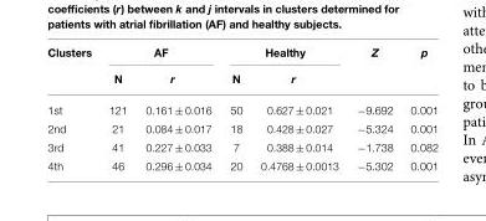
<table><thead><tr><td rowspan="2">Clusters</td><td colspan="2">AF</td><td colspan="2">Healthy</td><td rowspan="2">Z</td><td rowspan="2">p</td></tr><tr><td>N</td><td>r</td><td>N</td><td>r</td></tr></thead><tbody><tr><td>1st</td><td>121</td><td>0.161 ± 0.016</td><td>50</td><td>0.627 ± 0.021</td><td>−9.692</td><td>0.001</td></tr><tr><td>2nd</td><td>21</td><td>0.084 ± 0.017</td><td>18</td><td>0.428 ± 0.027</td><td>−5.324</td><td>0.001</td></tr><tr><td>3rd</td><td>41</td><td>0.227 ± 0.033</td><td>7</td><td>0.388 ± 0.014</td><td>−1.738</td><td>0.082</td></tr><tr><td>4th</td><td>46</td><td>0.296 ± 0.034</td><td>20</td><td>0.4768 ± 0.0013</td><td>−5.302</td><td>0.001</td></tr></tbody></table>